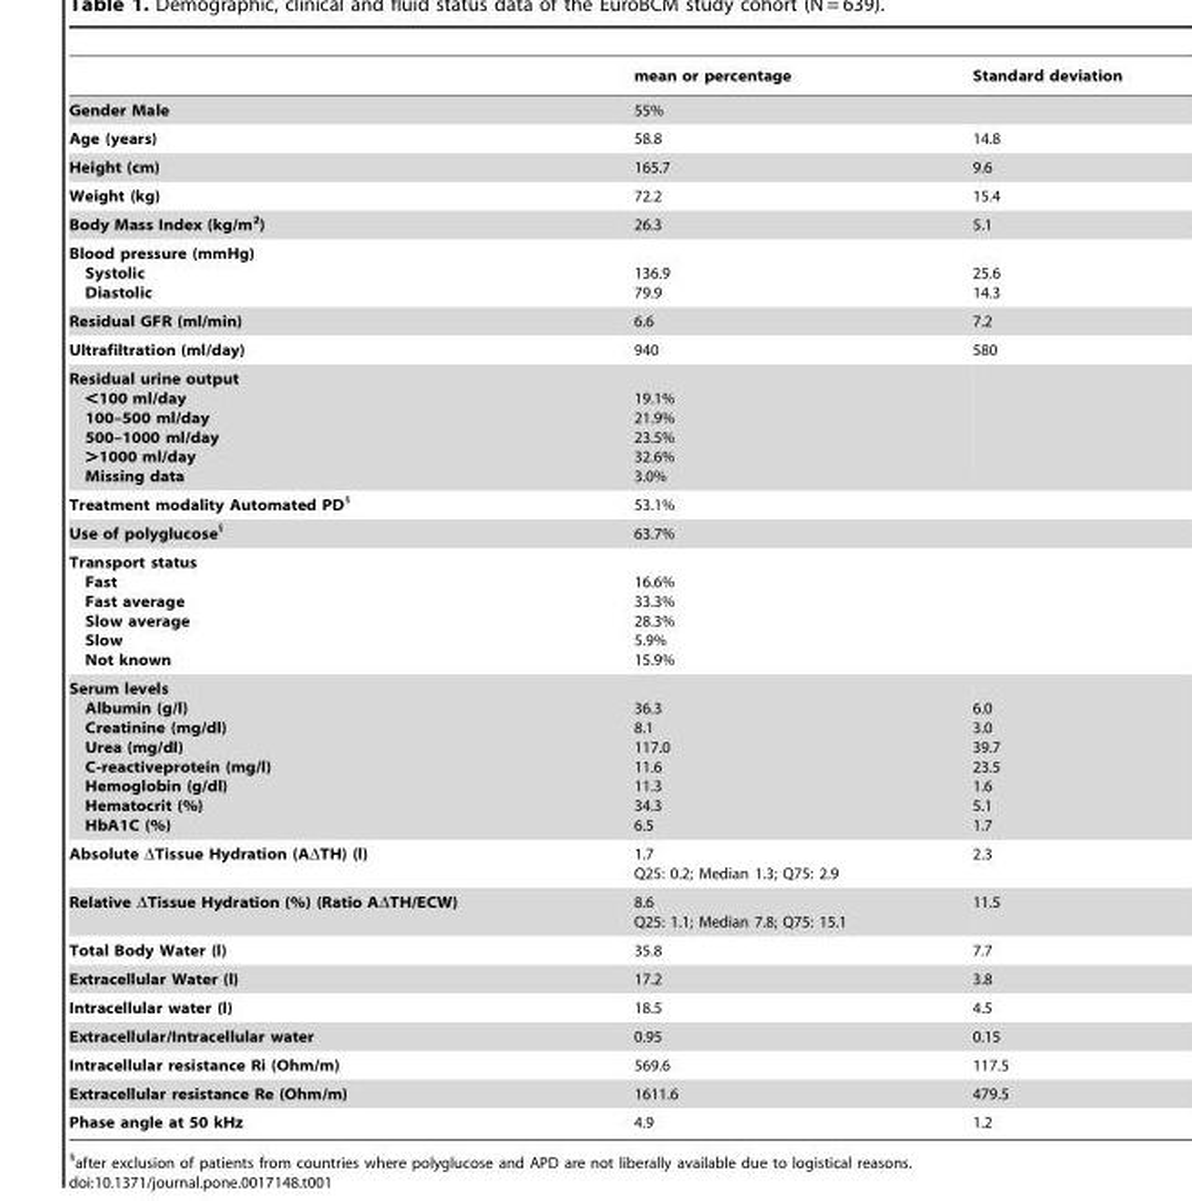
<table><thead><tr><td></td><td>mean or percentage</td><td>Standard deviation</td></tr></thead><tbody><tr><td>Gender Male</td><td>55%</td><td></td></tr><tr><td>Age (years)</td><td>58.8</td><td>14.8</td></tr><tr><td>Height (cm)</td><td>165.7</td><td>9.6</td></tr><tr><td>Weight (kg)</td><td>72.2</td><td>15.4</td></tr><tr><td>Body Mass Index (kg/m<sup>2</sup>)</td><td>26.3</td><td>5.1</td></tr><tr><td>Blood pressure (mmHg) Systolic Diastolic</td><td>136.9 79.9</td><td>25.6 14.3</td></tr><tr><td>Residual GFR (ml/min)</td><td>6.6</td><td>7.2</td></tr><tr><td>Ultrafiltration (ml/day)</td><td>940</td><td>580</td></tr><tr><td>Residual urine output &lt;100 ml/day 100–500 ml/day 500–1000 ml/day &gt;1000 ml/day Missing data</td><td>19.1% 21.9% 23.5% 32.6% 3.0%</td><td></td></tr><tr><td>Treatment modality Automated PD§</td><td>53.1%</td><td></td></tr><tr><td>Use of polyglucose§</td><td>63.7%</td><td></td></tr><tr><td>Transport status Fast Fast average Slow average Slow Not known</td><td>16.6% 33.3% 28.3% 5.9% 15.9%</td><td></td></tr><tr><td>Serum levels Albumin (g/l) Creatinine (mg/dl) Urea (mg/dl) C-reactiveprotein (mg/l) Hemoglobin (g/dl) Hematocrit (%) HbA1C (%)</td><td>36.3 8.1 117.0 11.6 11.3 34.3 6.5</td><td>6.0 3.0 39.7 23.5 1.6 5.1 1.7</td></tr><tr><td>Absolute ΔTissue Hydration (AΔTH) (l)</td><td>1.7 Q25: 0.2; Median 1.3; Q75: 2.9</td><td>2.3</td></tr><tr><td>Relative ΔTissue Hydration (%) (Ratio AΔTH/ECW)</td><td>8.6 Q25: 1.1; Median 7.8; Q75: 15.1</td><td>11.5</td></tr><tr><td>Total Body Water (l)</td><td>35.8</td><td>7.7</td></tr><tr><td>Extracellular Water (l)</td><td>17.2</td><td>3.8</td></tr><tr><td>Intracellular water (l)</td><td>18.5</td><td>4.5</td></tr><tr><td>Extracellular/Intracellular water</td><td>0.95</td><td>0.15</td></tr><tr><td>Intracellular resistance Ri (Ohm/m)</td><td>569.6</td><td>117.5</td></tr><tr><td>Extracellular resistance Re (Ohm/m)</td><td>1611.6</td><td>479.5</td></tr><tr><td>Phase angle at 50 kHz</td><td>4.9</td><td>1.2</td></tr></tbody></table>